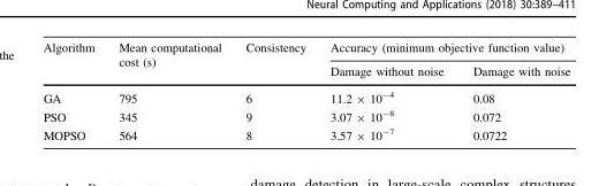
<table><thead><tr><td rowspan="2">Algorithm</td><td rowspan="2">Mean computational cost (s)</td><td rowspan="2">Consistency</td><td colspan="2">Accuracy (minimum objective function value)</td></tr><tr><td>Damage without noise</td><td>Damage with noise</td></tr></thead><tbody><tr><td>GA</td><td>795</td><td>6</td><td>11.2 × 10<sup>-4</sup></td><td>0.08</td></tr><tr><td>PSO</td><td>345</td><td>9</td><td>3.07 × 10<sup>-8</sup></td><td>0.072</td></tr><tr><td>MOPSO</td><td>564</td><td>8</td><td>3.57 × 10<sup>-7</sup></td><td>0.0722</td></tr></tbody></table>